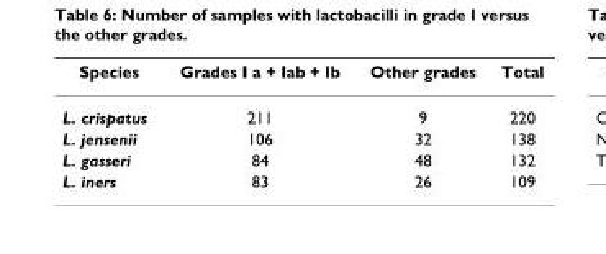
<table><thead><tr><td>Species</td><td>Grades I a + Iab + Ib</td><td>Other grades</td><td>Total</td></tr></thead><tbody><tr><td>L. crispatus</td><td>211</td><td>9</td><td>220</td></tr><tr><td>L. jensenii</td><td>106</td><td>32</td><td>138</td></tr><tr><td>L. gasseri</td><td>84</td><td>48</td><td>132</td></tr><tr><td>L. iners</td><td>83</td><td>26</td><td>109</td></tr></tbody></table>